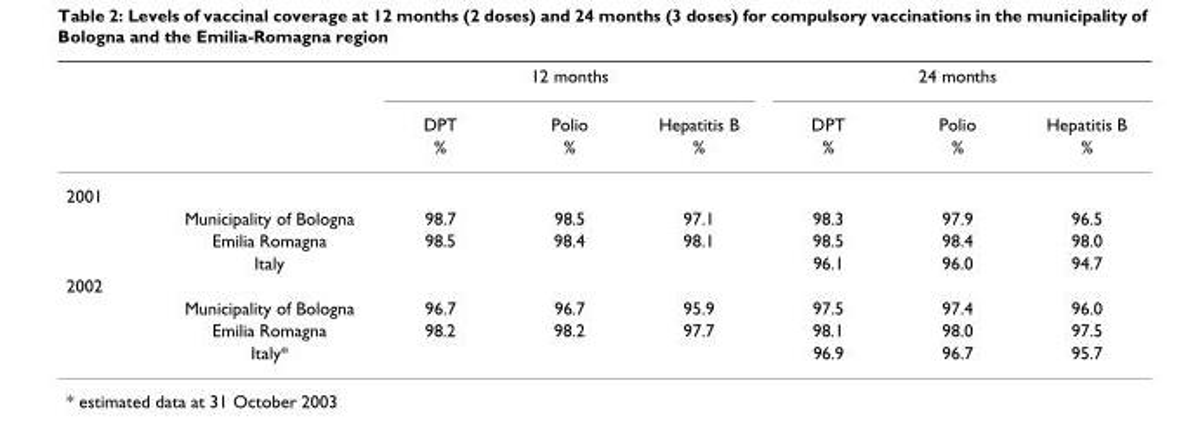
<table><thead><tr><td rowspan="3"></td><td rowspan="3"></td><td colspan="3">12 months</td><td colspan="3">24 months</td></tr><tr><td rowspan="2">DPT %</td><td rowspan="2">Polio %</td><td rowspan="2">Hepatitis B %</td><td rowspan="2">DPT %</td><td rowspan="2">Polio %</td><td rowspan="2">Hepatitis B %</td></tr><tr></tr></thead><tbody><tr><td colspan="8">2001</td></tr><tr><td></td><td>Municipality of Bologna</td><td>98.7</td><td>98.5</td><td>97.1</td><td>98.3</td><td>97.9</td><td>96.5</td></tr><tr><td></td><td>Emilia Romagna</td><td>98.5</td><td>98.4</td><td>98.1</td><td>98.5</td><td>98.4</td><td>98.0</td></tr><tr><td></td><td>Italy</td><td></td><td></td><td></td><td>96.1</td><td>96.0</td><td>94.7</td></tr><tr><td colspan="8">2002</td></tr><tr><td></td><td>Municipality of Bologna</td><td>96.7</td><td>96.7</td><td>95.9</td><td>97.5</td><td>97.4</td><td>96.0</td></tr><tr><td></td><td>Emilia Romagna</td><td>98.2</td><td>98.2</td><td>97.7</td><td>98.1</td><td>98.0</td><td>97.5</td></tr><tr><td></td><td>Italy*</td><td></td><td></td><td></td><td>96.9</td><td>96.7</td><td>95.7</td></tr></tbody></table>